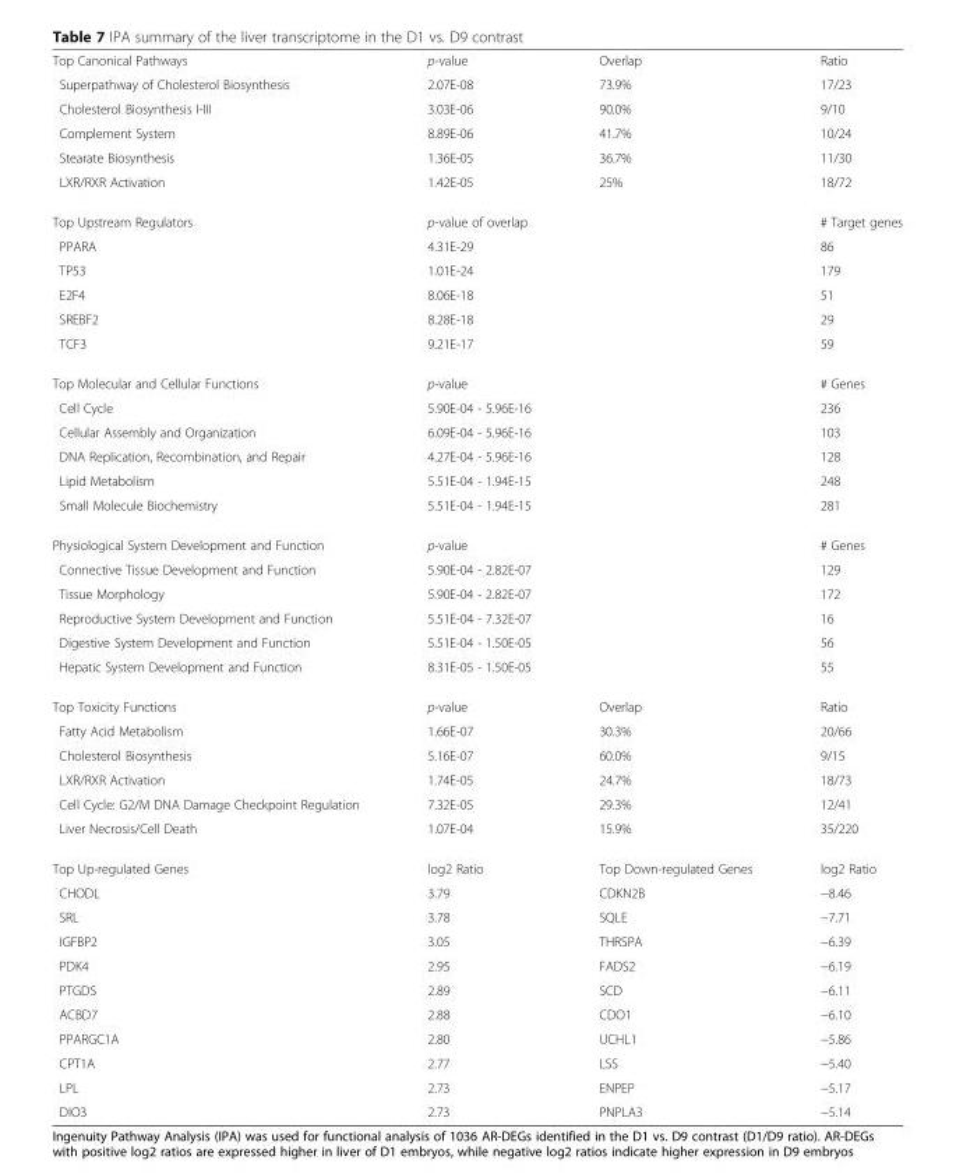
<table><tbody><tr><td>Top Canonical Pathways</td><td>p-value</td><td>Overlap</td><td>Ratio</td></tr><tr><td>Superpathway of Cholesterol Biosynthesis</td><td>2.07E-08</td><td>73.9%</td><td>17/23</td></tr><tr><td>Cholesterol Biosynthesis I-III</td><td>3.03E-06</td><td>90.0%</td><td>9/10</td></tr><tr><td>Complement System</td><td>8.89E-06</td><td>41.7%</td><td>10/24</td></tr><tr><td>Stearate Biosynthesis</td><td>1.36E-05</td><td>36.7%</td><td>11/30</td></tr><tr><td>LXR/RXR Activation</td><td>1.42E-05</td><td>25%</td><td>18/72</td></tr><tr><td>Top Upstream Regulators</td><td>p-value of overlap</td><td></td><td># Target genes</td></tr><tr><td>PPARA</td><td>4.31E-29</td><td></td><td>86</td></tr><tr><td>TP53</td><td>1.01E-24</td><td></td><td>179</td></tr><tr><td>E2F4</td><td>8.06E-18</td><td></td><td>51</td></tr><tr><td>SREBF2</td><td>8.28E-18</td><td></td><td>29</td></tr><tr><td>TCF3</td><td>9.21E-17</td><td></td><td>59</td></tr><tr><td>Top Molecular and Cellular Functions</td><td>p-value</td><td></td><td># Genes</td></tr><tr><td>Cell Cycle</td><td>5.90E-04 - 5.96E-16</td><td></td><td>236</td></tr><tr><td>Cellular Assembly and Organization</td><td>6.09E-04 - 5.96E-16</td><td></td><td>103</td></tr><tr><td>DNA Replication, Recombination, and Repair</td><td>4.27E-04 - 5.96E-16</td><td></td><td>128</td></tr><tr><td>Lipid Metabolism</td><td>5.51E-04 - 1.94E-15</td><td></td><td>248</td></tr><tr><td>Small Molecule Biochemistry</td><td>5.51E-04 - 1.94E-15</td><td></td><td>281</td></tr><tr><td>Physiological System Development and Function</td><td>p-value</td><td></td><td># Genes</td></tr><tr><td>Connective Tissue Development and Function</td><td>5.90E-04 - 2.82E-07</td><td></td><td>129</td></tr><tr><td>Tissue Morphology</td><td>5.90E-04 - 2.82E-07</td><td></td><td>172</td></tr><tr><td>Reproductive System Development and Function</td><td>5.51E-04 - 7.32E-07</td><td></td><td>16</td></tr><tr><td>Digestive System Development and Function</td><td>5.51E-04 - 1.50E-05</td><td></td><td>56</td></tr><tr><td>Hepatic System Development and Function</td><td>8.31E-05 - 1.50E-05</td><td></td><td>55</td></tr><tr><td>Top Toxicity Functions</td><td>p-value</td><td>Overlap</td><td>Ratio</td></tr><tr><td>Fatty Acid Metabolism</td><td>1.66E-07</td><td>30.3%</td><td>20/66</td></tr><tr><td>Cholesterol Biosynthesis</td><td>5.16E-07</td><td>60.0%</td><td>9/15</td></tr><tr><td>LXR/RXR Activation</td><td>1.74E-05</td><td>24.7%</td><td>18/73</td></tr><tr><td>Cell Cycle: G2/M DNA Damage Checkpoint Regulation</td><td>7.32E-05</td><td>29.3%</td><td>12/41</td></tr><tr><td>Liver Necrosis/Cell Death</td><td>1.07E-04</td><td>15.9%</td><td>35/220</td></tr><tr><td>Top Up-regulated Genes</td><td>log2 Ratio</td><td>Top Down-regulated Genes</td><td>log2 Ratio</td></tr><tr><td>CHODL</td><td>3.79</td><td>CDKN2B</td><td>−8.46</td></tr><tr><td>SRL</td><td>3.78</td><td>SQLE</td><td>−7.71</td></tr><tr><td>IGFBP2</td><td>3.05</td><td>THRSPA</td><td>−6.39</td></tr><tr><td>PDK4</td><td>2.95</td><td>FADS2</td><td>−6.19</td></tr><tr><td>PTGDS</td><td>2.89</td><td>SCD</td><td>−6.11</td></tr><tr><td>ACBD7</td><td>2.88</td><td>CDO1</td><td>−6.10</td></tr><tr><td>PPARGC1A</td><td>2.80</td><td>UCHL1</td><td>−5.86</td></tr><tr><td>CPT1A</td><td>2.77</td><td>LSS</td><td>−5.40</td></tr><tr><td>LPL</td><td>2.73</td><td>ENPEP</td><td>−5.17</td></tr><tr><td>DIO3</td><td>2.73</td><td>PNPLA3</td><td>−5.14</td></tr></tbody></table>